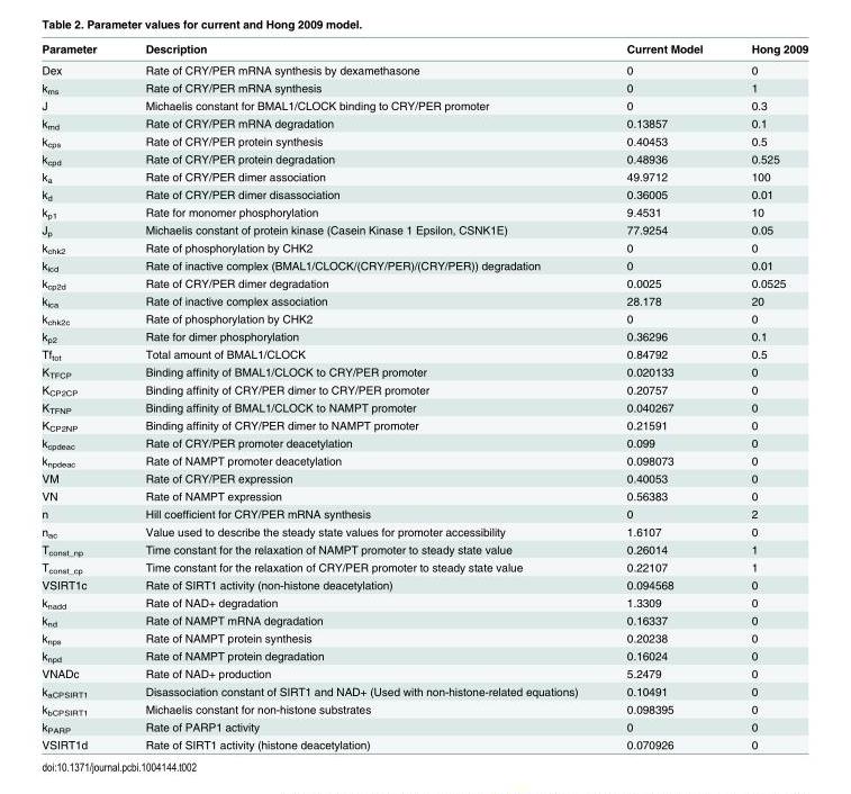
<table><thead><tr><td>Parameter</td><td>Description</td><td>Current Model</td><td>Hong 2009</td></tr></thead><tbody><tr><td>Dex</td><td>Rate of CRY/PER mRNA synthesis by dexamethasone</td><td>0</td><td>0</td></tr><tr><td>k<sub>ms</sub></td><td>Rate of CRY/PER mRNA synthesis</td><td>0</td><td>1</td></tr><tr><td>J</td><td>Michaelis constant for BMAL1/CLOCK binding to CRY/PER promoter</td><td>0</td><td>0.3</td></tr><tr><td>k<sub>md</sub></td><td>Rate of CRY/PER mRNA degradation</td><td>0.13857</td><td>0.1</td></tr><tr><td>k<sub>cps</sub></td><td>Rate of CRY/PER protein synthesis</td><td>0.40453</td><td>0.5</td></tr><tr><td>k<sub>cpd</sub></td><td>Rate of CRY/PER protein degradation</td><td>0.48936</td><td>0.525</td></tr><tr><td>k<sub>a</sub></td><td>Rate of CRY/PER dimer association</td><td>49.9712</td><td>100</td></tr><tr><td>k<sub>d</sub></td><td>Rate of CRY/PER dimer disassociation</td><td>0.36005</td><td>0.01</td></tr><tr><td>k<sub>p1</sub></td><td>Rate for monomer phosphorylation</td><td>9.4531</td><td>10</td></tr><tr><td>J<sub>p</sub></td><td>Michaelis constant of protein kinase (Casein Kinase 1 Epsilon, CSNK1E)</td><td>77.9254</td><td>0.05</td></tr><tr><td>k<sub>chk2</sub></td><td>Rate of phosphorylation by CHK2</td><td>0</td><td>0</td></tr><tr><td>k<sub>icd</sub></td><td>Rate of inactive complex (BMAL1/CLOCK/(CRY/PER)/(CRY/PER)) degradation</td><td>0</td><td>0.01</td></tr><tr><td>k<sub>cp2d</sub></td><td>Rate of CRY/PER dimer degradation</td><td>0.0025</td><td>0.0525</td></tr><tr><td>k<sub>ica</sub></td><td>Rate of inactive complex association</td><td>28.178</td><td>20</td></tr><tr><td>k<sub>chk2c</sub></td><td>Rate of phosphorylation by CHK2</td><td>0</td><td>0</td></tr><tr><td>k<sub>p2</sub></td><td>Rate for dimer phosphorylation</td><td>0.36296</td><td>0.1</td></tr><tr><td>Tf<sub>tot</sub></td><td>Total amount of BMAL1/CLOCK</td><td>0.84792</td><td>0.5</td></tr><tr><td>K<sub>TFCP</sub></td><td>Binding affinity of BMAL1/CLOCK to CRY/PER promoter</td><td>0.020133</td><td>0</td></tr><tr><td>K<sub>CP2CP</sub></td><td>Binding affinity of CRY/PER dimer to CRY/PER promoter</td><td>0.20757</td><td>0</td></tr><tr><td>K<sub>TFNP</sub></td><td>Binding affinity of BMAL1/CLOCK to NAMPT promoter</td><td>0.040267</td><td>0</td></tr><tr><td>K<sub>CP2NP</sub></td><td>Binding affinity of CRY/PER dimer to NAMPT promoter</td><td>0.21591</td><td>0</td></tr><tr><td>k<sub>cpdeac</sub></td><td>Rate of CRY/PER promoter deacetylation</td><td>0.099</td><td>0</td></tr><tr><td>k<sub>npdeac</sub></td><td>Rate of NAMPT promoter deacetylation</td><td>0.098073</td><td>0</td></tr><tr><td>VM</td><td>Rate of CRY/PER expression</td><td>0.40053</td><td>0</td></tr><tr><td>VN</td><td>Rate of NAMPT expression</td><td>0.56383</td><td>0</td></tr><tr><td>n</td><td>Hill coefficient for CRY/PER mRNA synthesis</td><td>0</td><td>2</td></tr><tr><td>n<sub>ac</sub></td><td>Value used to describe the steady state values for promoter accessibility</td><td>1.6107</td><td>0</td></tr><tr><td>T<sub>const_np</sub></td><td>Time constant for the relaxation of NAMPT promoter to steady state value</td><td>0.26014</td><td>1</td></tr><tr><td>T<sub>const_cp</sub></td><td>Time constant for the relaxation of CRY/PER promoter to steady state value</td><td>0.22107</td><td>1</td></tr><tr><td>VSIRT1c</td><td>Rate of SIRT1 activity (non-histone deacetylation)</td><td>0.094568</td><td>0</td></tr><tr><td>k<sub>nadd</sub></td><td>Rate of NAD+ degradation</td><td>1.3309</td><td>0</td></tr><tr><td>k<sub>nd</sub></td><td>Rate of NAMPT mRNA degradation</td><td>0.16337</td><td>0</td></tr><tr><td>k<sub>nps</sub></td><td>Rate of NAMPT protein synthesis</td><td>0.20238</td><td>0</td></tr><tr><td>k<sub>npd</sub></td><td>Rate of NAMPT protein degradation</td><td>0.16024</td><td>0</td></tr><tr><td>VNADc</td><td>Rate of NAD+ production</td><td>5.2479</td><td>0</td></tr><tr><td>k<sub>aCPSIRT1</sub></td><td>Disassociation constant of SIRT1 and NAD+ (Used with non-histone-related equations)</td><td>0.10491</td><td>0</td></tr><tr><td>k<sub>bCPSIRT1</sub></td><td>Michaelis constant for non-histone substrates</td><td>0.098395</td><td>0</td></tr><tr><td>k<sub>PARP</sub></td><td>Rate of PARP1 activity</td><td>0</td><td>0</td></tr><tr><td>VSIRT1d</td><td>Rate of SIRT1 activity (histone deacetylation)</td><td>0.070926</td><td>0</td></tr></tbody></table>